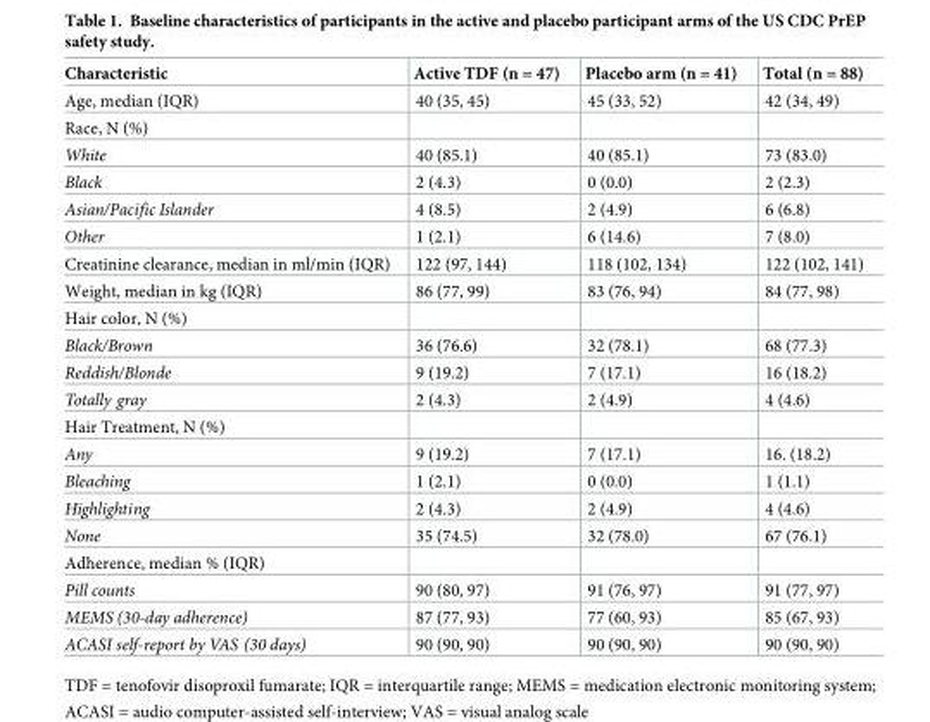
<table><thead><tr><td>Characteristic</td><td>Active TDF (n = 47)</td><td>Placebo arm (n = 41)</td><td>Total (n = 88)</td></tr></thead><tbody><tr><td>Age, median (IQR)</td><td>40 (35, 45)</td><td>45 (33, 52)</td><td>42 (34, 49)</td></tr><tr><td colspan="4">Race, N (%)</td></tr><tr><td>White</td><td>40 (85.1)</td><td>40 (85.1)</td><td>73 (83.0)</td></tr><tr><td>Black</td><td>2 (4.3)</td><td>0 (0.0)</td><td>2 (2.3)</td></tr><tr><td>Asian/Pacific Islander</td><td>4 (8.5)</td><td>2 (4.9)</td><td>6 (6.8)</td></tr><tr><td>Other</td><td>1 (2.1)</td><td>6 (14.6)</td><td>7 (8.0)</td></tr><tr><td>Creatinine clearance, median in ml/min (IQR)</td><td>122 (97, 144)</td><td>118 (102, 134)</td><td>122 (102, 141)</td></tr><tr><td>Weight, median in kg (IQR)</td><td>86 (77, 99)</td><td>83 (76, 94)</td><td>84 (77, 98)</td></tr><tr><td colspan="4">Hair color, N (%)</td></tr><tr><td>Black/Brown</td><td>36 (76.6)</td><td>32 (78.1)</td><td>68 (77.3)</td></tr><tr><td>Reddish/Blonde</td><td>9 (19.2)</td><td>7 (17.1)</td><td>16 (18.2)</td></tr><tr><td>Totally gray</td><td>2 (4.3)</td><td>2 (4.9)</td><td>4 (4.6)</td></tr><tr><td colspan="4">Hair Treatment, N (%)</td></tr><tr><td>Any</td><td>9 (19.2)</td><td>7 (17.1)</td><td>16. (18.2)</td></tr><tr><td>Bleaching</td><td>1 (2.1)</td><td>0 (0.0)</td><td>1 (1.1)</td></tr><tr><td>Highlighting</td><td>2 (4.3)</td><td>2 (4.9)</td><td>4 (4.6)</td></tr><tr><td>None</td><td>35 (74.5)</td><td>32 (78.0)</td><td>67 (76.1)</td></tr><tr><td colspan="4">Adherence, median % (IQR)</td></tr><tr><td>Pill counts</td><td>90 (80, 97)</td><td>91 (76, 97)</td><td>91 (77, 97)</td></tr><tr><td>MEMS (30-day adherence)</td><td>87 (77, 93)</td><td>77 (60, 93)</td><td>85 (67, 93)</td></tr><tr><td>ACASI self-report by VAS (30 days)</td><td>90 (90, 90)</td><td>90 (90, 90)</td><td>90 (90, 90)</td></tr></tbody></table>